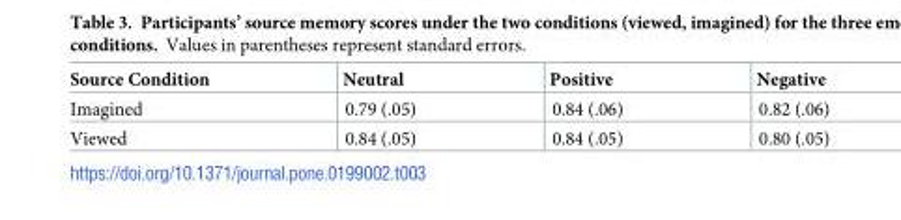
<table><thead><tr><td>Source Condition</td><td>Neutral</td><td>Positive</td><td>Negative</td></tr></thead><tbody><tr><td>Imagined</td><td>0.79 (.05)</td><td>0.84 (.06)</td><td>0.82 (.06)</td></tr><tr><td>Viewed</td><td>0.84 (.05)</td><td>0.84 (.05)</td><td>0.80 (.05)</td></tr></tbody></table>